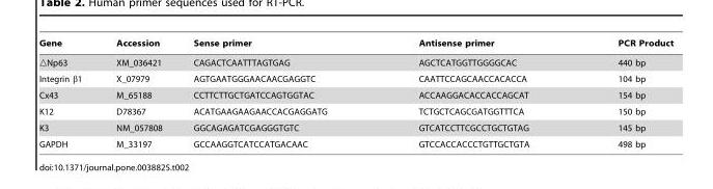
<table><thead><tr><td>Gene</td><td>Accession</td><td>Sense primer</td><td>Antisense primer</td><td>PCR Product</td></tr></thead><tbody><tr><td>▵Np63</td><td>XM_036421</td><td>CAGACTCAATTTAGTGAG</td><td>AGCTCATGGTTGGGGCAC</td><td>440 bp</td></tr><tr><td>Integrin β1</td><td>X_07979</td><td>AGTGAATGGGAACAACGAGGTC</td><td>CAATTCCAGCAACCACACCA</td><td>104 bp</td></tr><tr><td>Cx43</td><td>M_65188</td><td>CCTTCTTGCTGATCCAGTGGTAC</td><td>ACCAAGGACACCACCAGCAT</td><td>154 bp</td></tr><tr><td>K12</td><td>D78367</td><td>ACATGAAGAAGAACCACGAGGATG</td><td>TCTGCTCAGCGATGGTTTCA</td><td>150 bp</td></tr><tr><td>K3</td><td>NM_057808</td><td>GGCAGAGATCGAGGGTGTC</td><td>GTCATCCTTCGCCTGCTGTAG</td><td>145 bp</td></tr><tr><td>GAPDH</td><td>M_33197</td><td>GCCAAGGTCATCCATGACAAC</td><td>GTCCACCACCCTGTTGCTGTA</td><td>498 bp</td></tr></tbody></table>